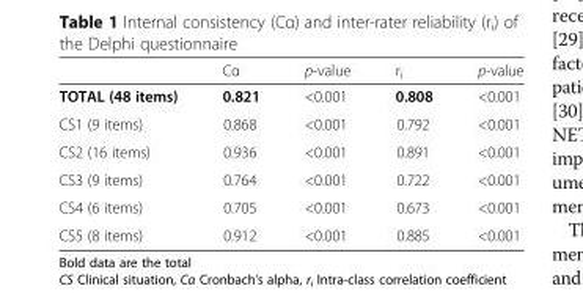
<table><thead><tr><td></td><td>Cα</td><td>p-value</td><td>r<sub>i</sub></td><td>p-value</td></tr></thead><tbody><tr><td>TOTAL (48 items)</td><td>0.821</td><td>&lt;0.001</td><td>0.808</td><td>&lt;0.001</td></tr><tr><td>CS1 (9 items)</td><td>0.868</td><td>&lt;0.001</td><td>0.792</td><td>&lt;0.001</td></tr><tr><td>CS2 (16 items)</td><td>0.936</td><td>&lt;0.001</td><td>0.891</td><td>&lt;0.001</td></tr><tr><td>CS3 (9 items)</td><td>0.764</td><td>&lt;0.001</td><td>0.722</td><td>&lt;0.001</td></tr><tr><td>CS4 (6 items)</td><td>0.705</td><td>&lt;0.001</td><td>0.673</td><td>&lt;0.001</td></tr><tr><td>CS5 (8 items)</td><td>0.912</td><td>&lt;0.001</td><td>0.885</td><td>&lt;0.001</td></tr></tbody></table>